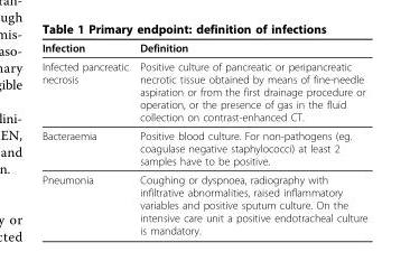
<table><thead><tr><td>Infection</td><td>Definition</td></tr></thead><tbody><tr><td>Infected pancreatic necrosis</td><td>Positive culture of pancreatic or peripancreatic necrotic tissue obtained by means of fine-needle aspiration or from the first drainage procedure or operation, or the presence of gas in the fluid collection on contrast-enhanced CT.</td></tr><tr><td>Bacteraemia</td><td>Positive blood culture. For non-pathogens (eg. coagulase negative staphylococci) at least 2 samples have to be positive.</td></tr><tr><td>Pneumonia</td><td>Coughing or dyspnoea, radiography with infiltrative abnormalities, raised inflammatory variables and positive sputum culture. On the intensive care unit a positive endotracheal culture is mandatory.</td></tr></tbody></table>